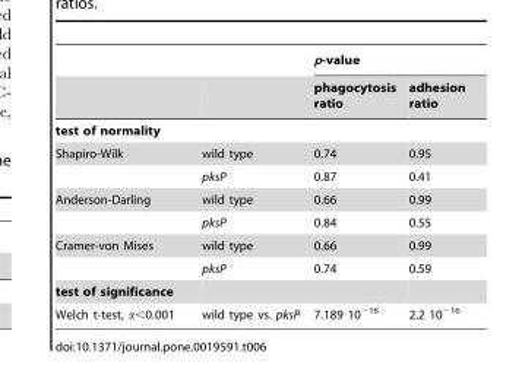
<table><thead><tr><td rowspan="2"></td><td rowspan="2"></td><td colspan="2">p-value</td></tr><tr><td>phagocytosis ratio</td><td>adhesion ratio</td></tr></thead><tbody><tr><td colspan="4">test of normality</td></tr><tr><td rowspan="2">Shapiro-Wilk</td><td>wild type</td><td>0.74</td><td>0.95</td></tr><tr><td>pksP</td><td>0.87</td><td>0.41</td></tr><tr><td rowspan="2">Anderson-Darling</td><td>wild type</td><td>0.66</td><td>0.99</td></tr><tr><td>pksP</td><td>0.84</td><td>0.55</td></tr><tr><td rowspan="2">Cramer-von Mises</td><td>wild type</td><td>0.66</td><td>0.99</td></tr><tr><td>pksP</td><td>0.74</td><td>0.59</td></tr><tr><td colspan="4">test of significance</td></tr><tr><td>Welch t-test, α&lt;0.001</td><td>wild type vs. pksP</td><td>7.189 10<sup>−16</sup></td><td>2.2 10<sup>−16</sup></td></tr></tbody></table>